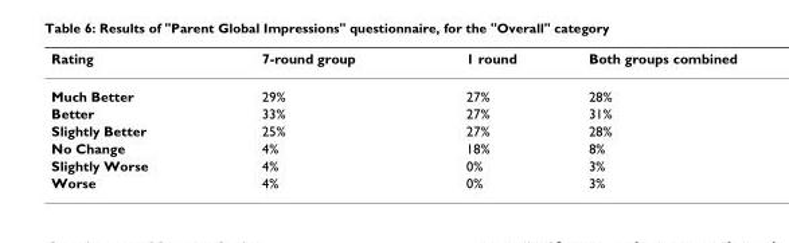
<table><thead><tr><td>Rating</td><td>7-round group</td><td>1 round</td><td>Both groups combined</td></tr></thead><tbody><tr><td>Much Better</td><td>29%</td><td>27%</td><td>28%</td></tr><tr><td>Better</td><td>33%</td><td>27%</td><td>31%</td></tr><tr><td>Slightly Better</td><td>25%</td><td>27%</td><td>28%</td></tr><tr><td>No Change</td><td>4%</td><td>18%</td><td>8%</td></tr><tr><td>Slightly Worse</td><td>4%</td><td>0%</td><td>3%</td></tr><tr><td>Worse</td><td>4%</td><td>0%</td><td>3%</td></tr></tbody></table>